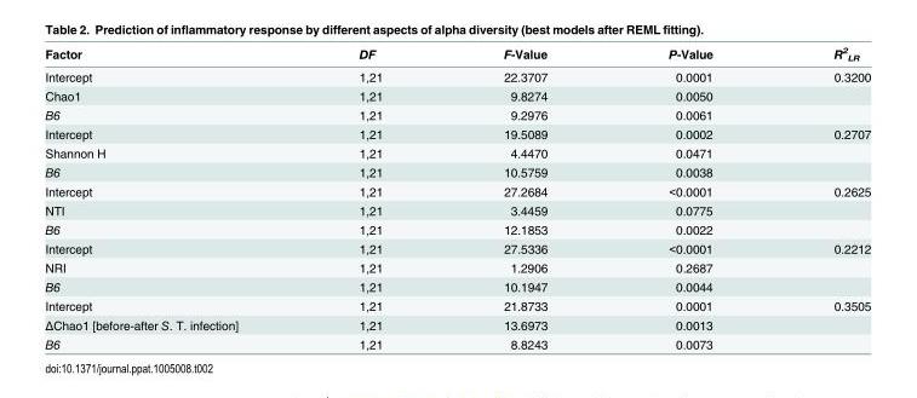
<table><thead><tr><td>Factor</td><td>DF</td><td>F-Value</td><td>P-Value</td><td>R<sup>2</sup> <sub>LR</sub></td></tr></thead><tbody><tr><td>Intercept</td><td>1,21</td><td>22.3707</td><td>0.0001</td><td>0.3200</td></tr><tr><td>Chao1</td><td>1,21</td><td>9.8274</td><td>0.0050</td><td></td></tr><tr><td>B6</td><td>1,21</td><td>9.2976</td><td>0.0061</td><td></td></tr><tr><td>Intercept</td><td>1,21</td><td>19.5089</td><td>0.0002</td><td>0.2707</td></tr><tr><td>Shannon H</td><td>1,21</td><td>4.4470</td><td>0.0471</td><td></td></tr><tr><td>B6</td><td>1,21</td><td>10.5759</td><td>0.0038</td><td></td></tr><tr><td>Intercept</td><td>1,21</td><td>27.2684</td><td>&lt;0.0001</td><td>0.2625</td></tr><tr><td>NTI</td><td>1,21</td><td>3.4459</td><td>0.0775</td><td></td></tr><tr><td>B6</td><td>1,21</td><td>12.1853</td><td>0.0022</td><td></td></tr><tr><td>Intercept</td><td>1,21</td><td>27.5336</td><td>&lt;0.0001</td><td>0.2212</td></tr><tr><td>NRI</td><td>1,21</td><td>1.2906</td><td>0.2687</td><td></td></tr><tr><td>B6</td><td>1,21</td><td>10.1947</td><td>0.0044</td><td></td></tr><tr><td>Intercept</td><td>1,21</td><td>21.8733</td><td>0.0001</td><td>0.3505</td></tr><tr><td>ΔChao1 [before-after S. T. infection]</td><td>1,21</td><td>13.6973</td><td>0.0013</td><td></td></tr><tr><td>B6</td><td>1,21</td><td>8.8243</td><td>0.0073</td><td></td></tr></tbody></table>